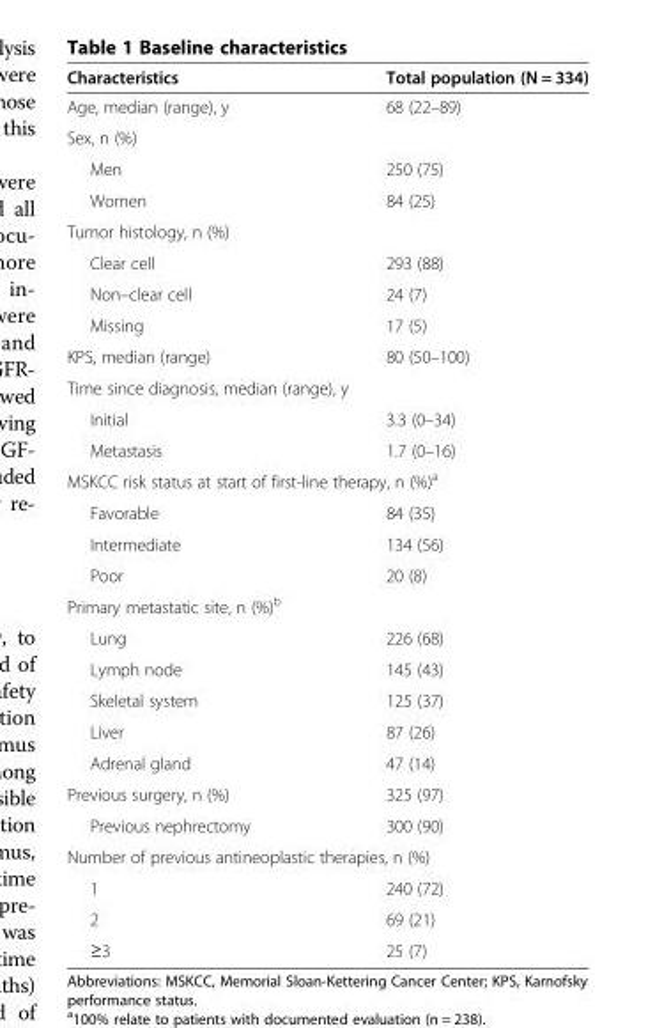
<table><thead><tr><td>Characteristics</td><td>Total population (N = 334)</td></tr></thead><tbody><tr><td>Age, median (range), y</td><td>68 (22–89)</td></tr><tr><td colspan="2">Sex, n (%)</td></tr><tr><td>Men</td><td>250 (75)</td></tr><tr><td>Women</td><td>84 (25)</td></tr><tr><td colspan="2">Tumor histology, n (%)</td></tr><tr><td>Clear cell</td><td>293 (88)</td></tr><tr><td>Non–clear cell</td><td>24 (7)</td></tr><tr><td>Missing</td><td>17 (5)</td></tr><tr><td>KPS, median (range)</td><td>80 (50–100)</td></tr><tr><td colspan="2">Time since diagnosis, median (range), y</td></tr><tr><td>Initial</td><td>3.3 (0–34)</td></tr><tr><td>Metastasis</td><td>1.7 (0–16)</td></tr><tr><td colspan="2">MSKCC risk status at start of first-line therapy, n (%)<sup>a</sup></td></tr><tr><td>Favorable</td><td>84 (35)</td></tr><tr><td>Intermediate</td><td>134 (56)</td></tr><tr><td>Poor</td><td>20 (8)</td></tr><tr><td colspan="2">Primary metastatic site, n (%)<sup>b</sup></td></tr><tr><td>Lung</td><td>226 (68)</td></tr><tr><td>Lymph node</td><td>145 (43)</td></tr><tr><td>Skeletal system</td><td>125 (37)</td></tr><tr><td>Liver</td><td>87 (26)</td></tr><tr><td>Adrenal gland</td><td>47 (14)</td></tr><tr><td>Previous surgery, n (%)</td><td>325 (97)</td></tr><tr><td>Previous nephrectomy</td><td>300 (90)</td></tr><tr><td colspan="2">Number of previous antineoplastic therapies, n (%)</td></tr><tr><td>1</td><td>240 (72)</td></tr><tr><td>2</td><td>69 (21)</td></tr><tr><td>≥3</td><td>25 (7)</td></tr></tbody></table>